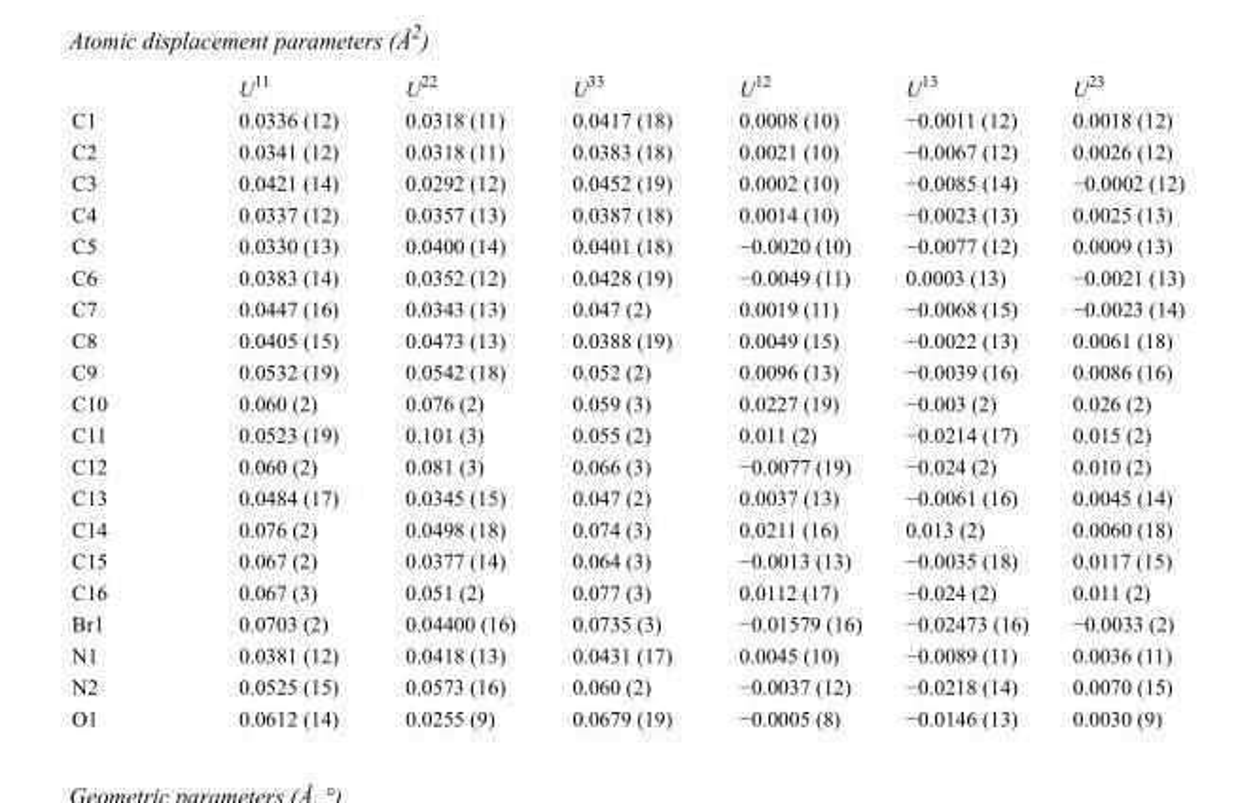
<table><thead><tr><td></td><td>U<sup>11</sup></td><td>U<sup>22</sup></td><td>U<sup>33</sup></td><td>U<sup>12</sup></td><td>U<sup>13</sup></td><td>U<sup>23</sup></td></tr></thead><tbody><tr><td>C1</td><td>0.0336 (12)</td><td>0.0318 (11)</td><td>0.0417 (18)</td><td>0.0008 (10)</td><td>−0.0011 (12)</td><td>0.0018 (12)</td></tr><tr><td>C2</td><td>0.0341 (12)</td><td>0.0318 (11)</td><td>0.0383 (18)</td><td>0.0021 (10)</td><td>−0.0067 (12)</td><td>0.0026 (12)</td></tr><tr><td>C3</td><td>0.0421 (14)</td><td>0.0292 (12)</td><td>0.0452 (19)</td><td>0.0002 (10)</td><td>−0.0085 (14)</td><td>−0.0002 (12)</td></tr><tr><td>C4</td><td>0.0337 (12)</td><td>0.0357 (13)</td><td>0.0387 (18)</td><td>0.0014 (10)</td><td>−0.0023 (13)</td><td>0.0025 (13)</td></tr><tr><td>C5</td><td>0.0330 (13)</td><td>0.0400 (14)</td><td>0.0401 (18)</td><td>−0.0020 (10)</td><td>−0.0077 (12)</td><td>0.0009 (13)</td></tr><tr><td>C6</td><td>0.0383 (14)</td><td>0.0352 (12)</td><td>0.0428 (19)</td><td>−0.0049 (11)</td><td>0.0003 (13)</td><td>−0.0021 (13)</td></tr><tr><td>C7</td><td>0.0447 (16)</td><td>0.0343 (13)</td><td>0.047 (2)</td><td>0.0019 (11)</td><td>−0.0068 (15)</td><td>−0.0023 (14)</td></tr><tr><td>C8</td><td>0.0405 (15)</td><td>0.0473 (13)</td><td>0.0388 (19)</td><td>0.0049 (15)</td><td>−0.0022 (13)</td><td>0.0061 (18)</td></tr><tr><td>C9</td><td>0.0532 (19)</td><td>0.0542 (18)</td><td>0.052 (2)</td><td>0.0096 (13)</td><td>−0.0039 (16)</td><td>0.0086 (16)</td></tr><tr><td>C10</td><td>0.060 (2)</td><td>0.076 (2)</td><td>0.059 (3)</td><td>0.0227 (19)</td><td>−0.003 (2)</td><td>0.026 (2)</td></tr><tr><td>C11</td><td>0.0523 (19)</td><td>0.101 (3)</td><td>0.055 (2)</td><td>0.011 (2)</td><td>−0.0214 (17)</td><td>0.015 (2)</td></tr><tr><td>C12</td><td>0.060 (2)</td><td>0.081 (3)</td><td>0.066 (3)</td><td>−0.0077 (19)</td><td>−0.024 (2)</td><td>0.010 (2)</td></tr><tr><td>C13</td><td>0.0484 (17)</td><td>0.0345 (15)</td><td>0.047 (2)</td><td>0.0037 (13)</td><td>−0.0061 (16)</td><td>0.0045 (14)</td></tr><tr><td>C14</td><td>0.076 (2)</td><td>0.0498 (18)</td><td>0.074 (3)</td><td>0.0211 (16)</td><td>0.013 (2)</td><td>0.0060 (18)</td></tr><tr><td>C15</td><td>0.067 (2)</td><td>0.0377 (14)</td><td>0.064 (3)</td><td>−0.0013 (13)</td><td>−0.0035 (18)</td><td>0.0117 (15)</td></tr><tr><td>C16</td><td>0.067 (3)</td><td>0.051 (2)</td><td>0.077 (3)</td><td>0.0112 (17)</td><td>−0.024 (2)</td><td>0.011 (2)</td></tr><tr><td>Br1</td><td>0.0703 (2)</td><td>0.04400 (16)</td><td>0.0735 (3)</td><td>−0.01579 (16)</td><td>−0.02473 (16)</td><td>−0.0033 (2)</td></tr><tr><td>N1</td><td>0.0381 (12)</td><td>0.0418 (13)</td><td>0.0431 (17)</td><td>0.0045 (10)</td><td>−0.0089 (11)</td><td>0.0036 (11)</td></tr><tr><td>N2</td><td>0.0525 (15)</td><td>0.0573 (16)</td><td>0.060 (2)</td><td>−0.0037 (12)</td><td>−0.0218 (14)</td><td>0.0070 (15)</td></tr><tr><td>O1</td><td>0.0612 (14)</td><td>0.0255 (9)</td><td>0.0679 (19)</td><td>−0.0005 (8)</td><td>−0.0146 (13)</td><td>0.0030 (9)</td></tr></tbody></table>